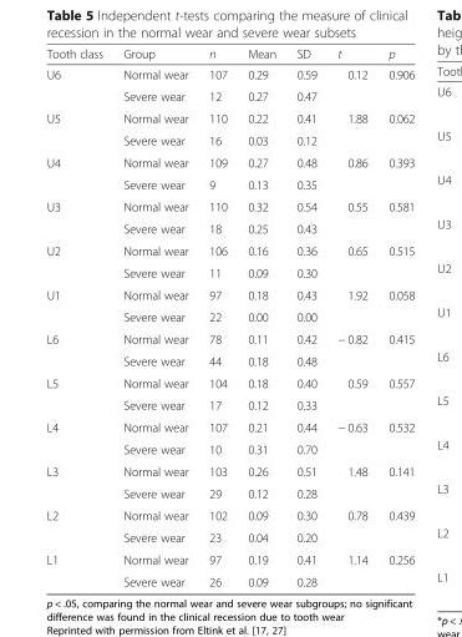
<table><thead><tr><td>Tooth class</td><td>Group</td><td>n</td><td>Mean</td><td>SD</td><td>t</td><td>p</td></tr></thead><tbody><tr><td rowspan="2">U6</td><td>Normal wear</td><td>107</td><td>0.29</td><td>0.59</td><td rowspan="2">0.12</td><td rowspan="2">0.906</td></tr><tr><td>Severe wear</td><td>12</td><td>0.27</td><td>0.47</td></tr><tr><td rowspan="2">U5</td><td>Normal wear</td><td>110</td><td>0.22</td><td>0.41</td><td rowspan="2">1.88</td><td rowspan="2">0.062</td></tr><tr><td>Severe wear</td><td>16</td><td>0.03</td><td>0.12</td></tr><tr><td rowspan="2">U4</td><td>Normal wear</td><td>109</td><td>0.27</td><td>0.48</td><td rowspan="2">0.86</td><td rowspan="2">0.393</td></tr><tr><td>Severe wear</td><td>9</td><td>0.13</td><td>0.35</td></tr><tr><td rowspan="2">U3</td><td>Normal wear</td><td>110</td><td>0.32</td><td>0.54</td><td rowspan="2">0.55</td><td rowspan="2">0.581</td></tr><tr><td>Severe wear</td><td>18</td><td>0.25</td><td>0.43</td></tr><tr><td rowspan="2">U2</td><td>Normal wear</td><td>106</td><td>0.16</td><td>0.36</td><td rowspan="2">0.65</td><td rowspan="2">0.515</td></tr><tr><td>Severe wear</td><td>11</td><td>0.09</td><td>0.30</td></tr><tr><td rowspan="2">U1</td><td>Normal wear</td><td>97</td><td>0.18</td><td>0.43</td><td rowspan="2">1.92</td><td rowspan="2">0.058</td></tr><tr><td>Severe wear</td><td>22</td><td>0.00</td><td>0.00</td></tr><tr><td rowspan="2">L6</td><td>Normal wear</td><td>78</td><td>0.11</td><td>0.42</td><td rowspan="2">− 0.82</td><td rowspan="2">0.415</td></tr><tr><td>Severe wear</td><td>44</td><td>0.18</td><td>0.48</td></tr><tr><td rowspan="2">L5</td><td>Normal wear</td><td>104</td><td>0.18</td><td>0.40</td><td rowspan="2">0.59</td><td rowspan="2">0.557</td></tr><tr><td>Severe wear</td><td>17</td><td>0.12</td><td>0.33</td></tr><tr><td rowspan="2">L4</td><td>Normal wear</td><td>107</td><td>0.21</td><td>0.44</td><td rowspan="2">− 0.63</td><td rowspan="2">0.532</td></tr><tr><td>Severe wear</td><td>10</td><td>0.31</td><td>0.70</td></tr><tr><td rowspan="2">L3</td><td>Normal wear</td><td>103</td><td>0.26</td><td>0.51</td><td rowspan="2">1.48</td><td rowspan="2">0.141</td></tr><tr><td>Severe wear</td><td>29</td><td>0.12</td><td>0.28</td></tr><tr><td rowspan="2">L2</td><td>Normal wear</td><td>102</td><td>0.09</td><td>0.30</td><td rowspan="2">0.78</td><td rowspan="2">0.439</td></tr><tr><td>Severe wear</td><td>23</td><td>0.04</td><td>0.20</td></tr><tr><td rowspan="2">L1</td><td>Normal wear</td><td>97</td><td>0.19</td><td>0.41</td><td rowspan="2">1.14</td><td rowspan="2">0.256</td></tr><tr><td>Severe wear</td><td>26</td><td>0.09</td><td>0.28</td></tr></tbody></table>